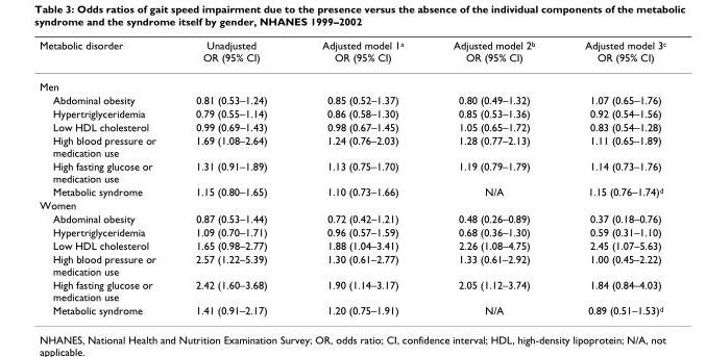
<table><thead><tr><td>Metabolic disorder</td><td>Unadjusted OR (95% CI)</td><td>Adjusted model 1a OR (95% CI)</td><td>Adjusted model 2b OR (95% CI)</td><td>Adjusted model 3c OR (95% CI)</td></tr></thead><tbody><tr><td colspan="5">Men</td></tr><tr><td>Abdominal obesity</td><td>0.81 (0.53–1.24)</td><td>0.85 (0.52–1.37)</td><td>0.80 (0.49–1.32)</td><td>1.07 (0.65–1.76)</td></tr><tr><td>Hypertriglyceridemia</td><td>0.79 (0.55–1.14)</td><td>0.86 (0.58–1.30)</td><td>0.85 (0.53–1.36)</td><td>0.92 (0.54–1.56)</td></tr><tr><td>Low HDL cholesterol</td><td>0.99 (0.69–1.43)</td><td>0.98 (0.67–1.45)</td><td>1.05 (0.65–1.72)</td><td>0.83 (0.54–1.28)</td></tr><tr><td>High blood pressure or medication use</td><td>1.69 (1.08–2.64)</td><td>1.24 (0.76–2.03)</td><td>1.28 (0.77–2.13)</td><td>1.11 (0.65–1.89)</td></tr><tr><td>High fasting glucose or medication use</td><td>1.31 (0.91–1.89)</td><td>1.13 (0.75–1.70)</td><td>1.19 (0.79–1.79)</td><td>1.14 (0.73–1.76)</td></tr><tr><td>Metabolic syndrome</td><td>1.15 (0.80–1.65)</td><td>1.10 (0.73–1.66)</td><td>N/A</td><td>1.15 (0.76–1.74)d</td></tr><tr><td colspan="5">Women</td></tr><tr><td>Abdominal obesity</td><td>0.87 (0.53–1.44)</td><td>0.72 (0.42–1.21)</td><td>0.48 (0.26–0.89)</td><td>0.37 (0.18–0.76)</td></tr><tr><td>Hypertriglyceridemia</td><td>1.09 (0.70–1.71)</td><td>0.96 (0.57–1.59)</td><td>0.68 (0.36–1.30)</td><td>0.59 (0.31–1.10)</td></tr><tr><td>Low HDL cholesterol</td><td>1.65 (0.98–2.77)</td><td>1.88 (1.04–3.41)</td><td>2.26 (1.08–4.75)</td><td>2.45 (1.07–5.63)</td></tr><tr><td>High blood pressure or medication use</td><td>2.57 (1.22–5.39)</td><td>1.30 (0.61–2.77)</td><td>1.33 (0.61–2.92)</td><td>1.00 (0.45–2.22)</td></tr><tr><td>High fasting glucose or medication use</td><td>2.42 (1.60–3.68)</td><td>1.90 (1.14–3.17)</td><td>2.05 (1.12–3.74)</td><td>1.84 (0.84–4.03)</td></tr><tr><td>Metabolic syndrome</td><td>1.41 (0.91–2.17)</td><td>1.20 (0.75–1.91)</td><td>N/A</td><td>0.89 (0.51–1.53)d</td></tr></tbody></table>